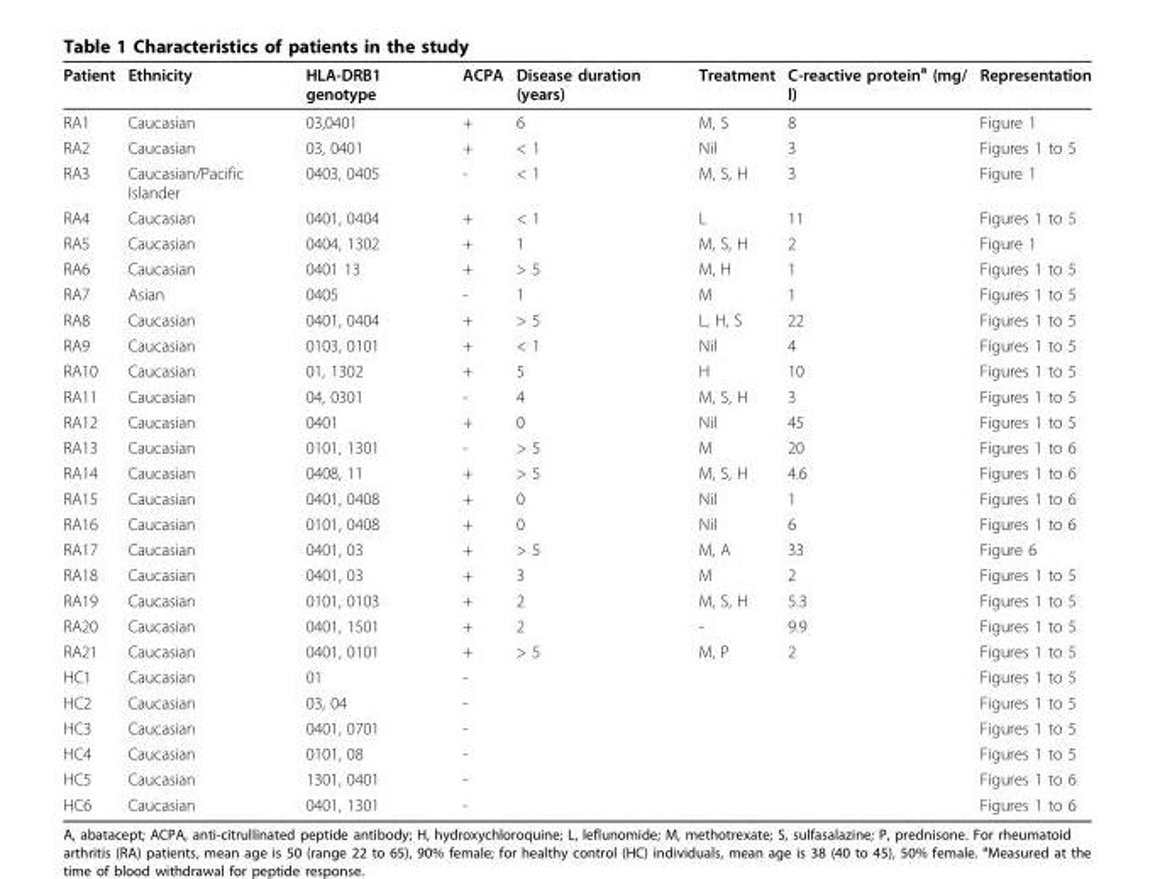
<table><thead><tr><td>Patient</td><td>Ethnicity</td><td>HLA-DRB1 genotype</td><td>ACPA</td><td>Disease duration (years)</td><td>Treatment</td><td>C-reactive protein<sup>a</sup> (mg/ l)</td><td>Representation</td></tr></thead><tbody><tr><td>RA1</td><td>Caucasian</td><td>03,0401</td><td>+</td><td>6</td><td>M, S</td><td>8</td><td>Figure 1</td></tr><tr><td>RA2</td><td>Caucasian</td><td>03, 0401</td><td>+</td><td>&lt; 1</td><td>Nil</td><td>3</td><td>Figures 1 to 5</td></tr><tr><td>RA3</td><td>Caucasian/Pacific Islander</td><td>0403, 0405</td><td>-</td><td>&lt; 1</td><td>M, S, H</td><td>3</td><td>Figure 1</td></tr><tr><td>RA4</td><td>Caucasian</td><td>0401, 0404</td><td>+</td><td>&lt; 1</td><td>L</td><td>11</td><td>Figures 1 to 5</td></tr><tr><td>RA5</td><td>Caucasian</td><td>0404, 1302</td><td>+</td><td>1</td><td>M, S, H</td><td>2</td><td>Figure 1</td></tr><tr><td>RA6</td><td>Caucasian</td><td>0401 13</td><td>+</td><td>&gt; 5</td><td>M, H</td><td>1</td><td>Figures 1 to 5</td></tr><tr><td>RA7</td><td>Asian</td><td>0405</td><td>-</td><td>1</td><td>M</td><td>1</td><td>Figures 1 to 5</td></tr><tr><td>RA8</td><td>Caucasian</td><td>0401, 0404</td><td>+</td><td>&gt; 5</td><td>L, H, S</td><td>22</td><td>Figures 1 to 5</td></tr><tr><td>RA9</td><td>Caucasian</td><td>0103, 0101</td><td>+</td><td>&lt; 1</td><td>Nil</td><td>4</td><td>Figures 1 to 5</td></tr><tr><td>RA10</td><td>Caucasian</td><td>01, 1302</td><td>+</td><td>5</td><td>H</td><td>10</td><td>Figures 1 to 5</td></tr><tr><td>RA11</td><td>Caucasian</td><td>04, 0301</td><td>-</td><td>4</td><td>M, S, H</td><td>3</td><td>Figures 1 to 5</td></tr><tr><td>RA12</td><td>Caucasian</td><td>0401</td><td>+</td><td>0</td><td>Nil</td><td>45</td><td>Figures 1 to 5</td></tr><tr><td>RA13</td><td>Caucasian</td><td>0101, 1301</td><td>-</td><td>&gt; 5</td><td>M</td><td>20</td><td>Figures 1 to 6</td></tr><tr><td>RA14</td><td>Caucasian</td><td>0408, 11</td><td>+</td><td>&gt; 5</td><td>M, S, H</td><td>4.6</td><td>Figures 1 to 6</td></tr><tr><td>RA15</td><td>Caucasian</td><td>0401, 0408</td><td>+</td><td>0</td><td>Nil</td><td>1</td><td>Figures 1 to 6</td></tr><tr><td>RA16</td><td>Caucasian</td><td>0101, 0408</td><td>+</td><td>0</td><td>Nil</td><td>6</td><td>Figures 1 to 6</td></tr><tr><td>RA17</td><td>Caucasian</td><td>0401, 03</td><td>+</td><td>&gt; 5</td><td>M, A</td><td>33</td><td>Figure 6</td></tr><tr><td>RA18</td><td>Caucasian</td><td>0401, 03</td><td>+</td><td>3</td><td>M</td><td>2</td><td>Figures 1 to 5</td></tr><tr><td>RA19</td><td>Caucasian</td><td>0101, 0103</td><td>+</td><td>2</td><td>M, S, H</td><td>5.3</td><td>Figures 1 to 5</td></tr><tr><td>RA20</td><td>Caucasian</td><td>0401, 1501</td><td>+</td><td>2</td><td>-</td><td>9.9</td><td>Figures 1 to 5</td></tr><tr><td>RA21</td><td>Caucasian</td><td>0401, 0101</td><td>+</td><td>&gt; 5</td><td>M, P</td><td>2</td><td>Figures 1 to 5</td></tr><tr><td>HC1</td><td>Caucasian</td><td>01</td><td>-</td><td></td><td></td><td></td><td>Figures 1 to 5</td></tr><tr><td>HC2</td><td>Caucasian</td><td>03, 04</td><td>-</td><td></td><td></td><td></td><td>Figures 1 to 5</td></tr><tr><td>HC3</td><td>Caucasian</td><td>0401, 0701</td><td>-</td><td></td><td></td><td></td><td>Figures 1 to 5</td></tr><tr><td>HC4</td><td>Caucasian</td><td>0101, 08</td><td>-</td><td></td><td></td><td></td><td>Figures 1 to 5</td></tr><tr><td>HC5</td><td>Caucasian</td><td>1301, 0401</td><td>-</td><td></td><td></td><td></td><td>Figures 1 to 6</td></tr><tr><td>HC6</td><td>Caucasian</td><td>0401, 1301</td><td>-</td><td></td><td></td><td></td><td>Figures 1 to 6</td></tr></tbody></table>